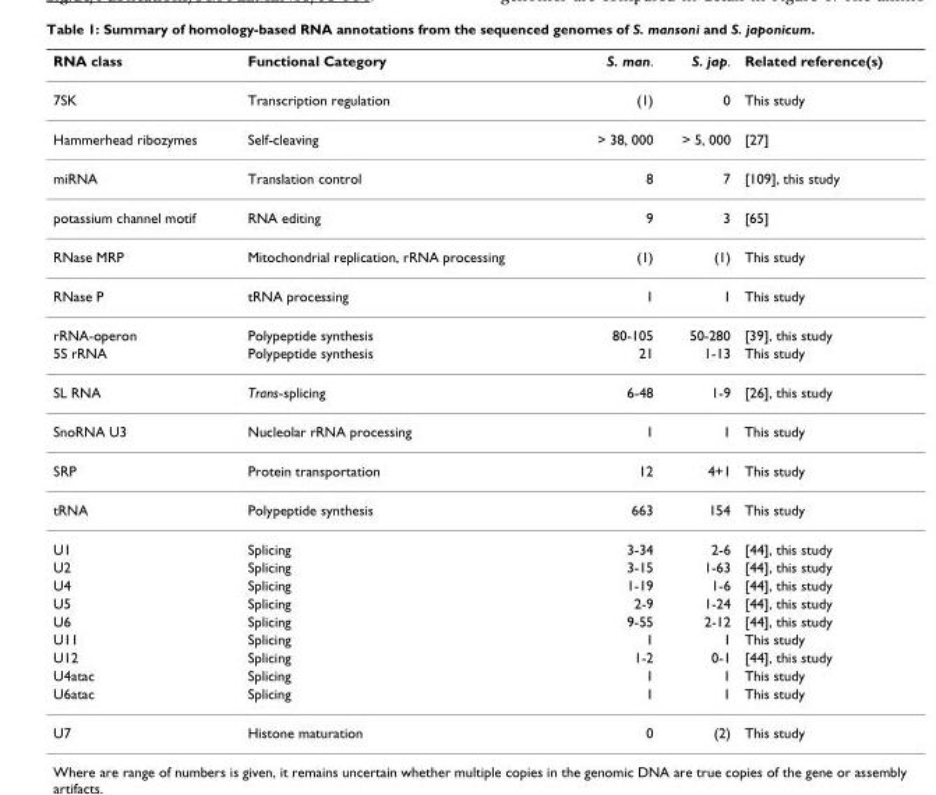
<table><thead><tr><td>RNA class</td><td>Functional Category</td><td>S. man.</td><td>S. jap.</td><td>Related reference(s)</td></tr></thead><tbody><tr><td>7SK</td><td>Transcription regulation</td><td>(1)</td><td>0</td><td>This study</td></tr><tr><td>Hammerhead ribozymes</td><td>Self-cleaving</td><td>&gt; 38, 000</td><td>&gt; 5, 000</td><td>[27]</td></tr><tr><td>miRNA</td><td>Translation control</td><td>8</td><td>7</td><td>[109], this study</td></tr><tr><td>potassium channel motif</td><td>RNA editing</td><td>9</td><td>3</td><td>[65]</td></tr><tr><td>RNase MRP</td><td>Mitochondrial replication, rRNA processing</td><td>(1)</td><td>(1)</td><td>This study</td></tr><tr><td>RNase P</td><td>tRNA processing</td><td>1</td><td>1</td><td>This study</td></tr><tr><td>rRNA-operon</td><td>Polypeptide synthesis</td><td>80-105</td><td>50-280</td><td>[39], this study</td></tr><tr><td>5S rRNA</td><td>Polypeptide synthesis</td><td>21</td><td>1-13</td><td>This study</td></tr><tr><td>SL RNA</td><td>Trans-splicing</td><td>6-48</td><td>1-9</td><td>[26], this study</td></tr><tr><td>SnoRNA U3</td><td>Nucleolar rRNA processing</td><td>1</td><td>1</td><td>This study</td></tr><tr><td>SRP</td><td>Protein transportation</td><td>12</td><td>4+1</td><td>This study</td></tr><tr><td>tRNA</td><td>Polypeptide synthesis</td><td>663</td><td>154</td><td>This study</td></tr><tr><td>U1</td><td>Splicing</td><td>3-34</td><td>2-6</td><td>[44], this study</td></tr><tr><td>U2</td><td>Splicing</td><td>3-15</td><td>1-63</td><td>[44], this study</td></tr><tr><td>U4</td><td>Splicing</td><td>1-19</td><td>1-6</td><td>[44], this study</td></tr><tr><td>U5</td><td>Splicing</td><td>2-9</td><td>1-24</td><td>[44], this study</td></tr><tr><td>U6</td><td>Splicing</td><td>9-55</td><td>2-12</td><td>[44], this study</td></tr><tr><td>U11</td><td>Splicing</td><td>1</td><td>1</td><td>This study</td></tr><tr><td>U12</td><td>Splicing</td><td>1-2</td><td>0-1</td><td>[44], this study</td></tr><tr><td>U4atac</td><td>Splicing</td><td>1</td><td>1</td><td>This study</td></tr><tr><td>U6atac</td><td>Splicing</td><td>1</td><td>1</td><td>This study</td></tr><tr><td>U7</td><td>Histone maturation</td><td>0</td><td>(2)</td><td>This study</td></tr></tbody></table>